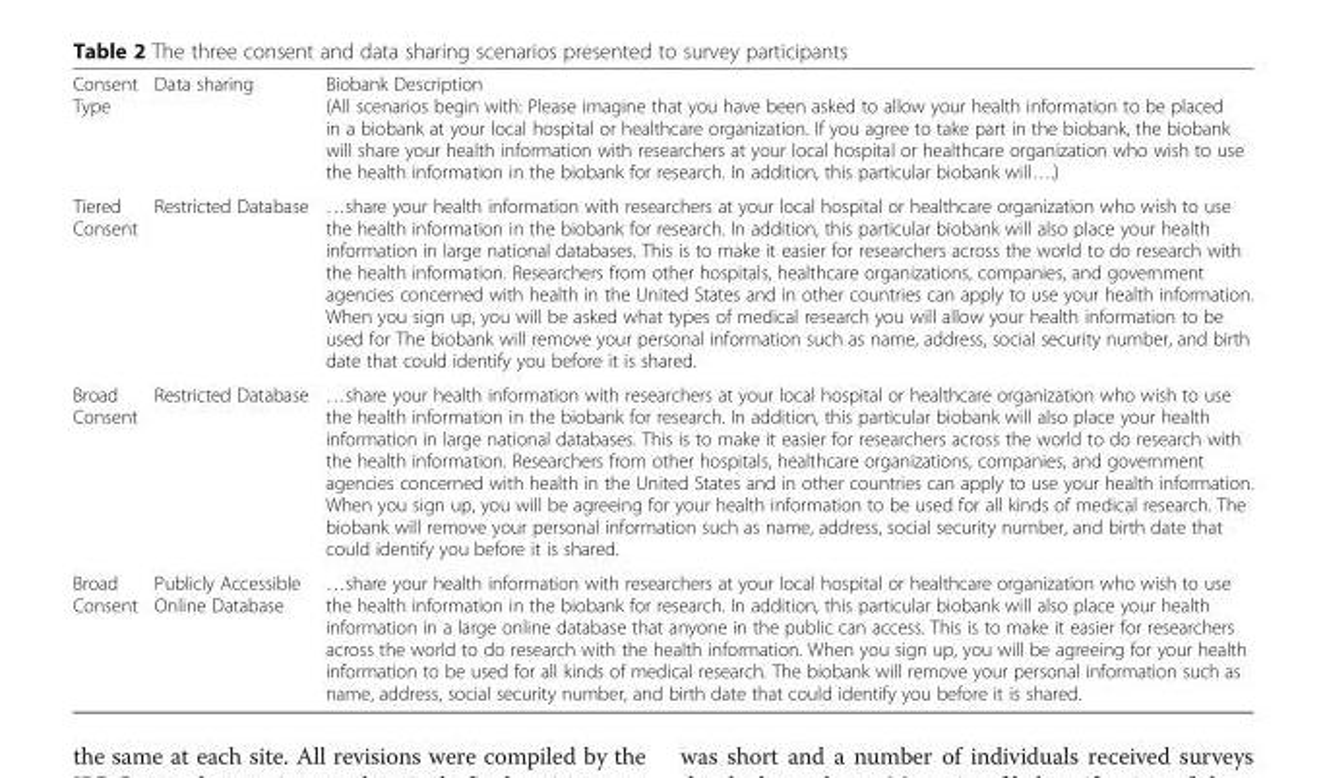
<table><tbody><tr><td>Consent Type</td><td>Data sharing</td><td>Biobank Description (All scenarios begin with: Please imagine that you have been asked to allow your health information to be placed in a biobank at your local hospital or healthcare organization. If you agree to take part in the biobank, the biobank will share your health information with researchers at your local hospital or healthcare organization who wish to use the health information in the biobank for research. In addition, this particular biobank will….)</td></tr><tr><td>Tiered Consent</td><td>Restricted Database</td><td>…share your health information with researchers at your local hospital or healthcare organization who wish to use the health information in the biobank for research. In addition, this particular biobank will also place your health information in large national databases. This is to make it easier for researchers across the world to do research with the health information. Researchers from other hospitals, healthcare organizations, companies, and government agencies concerned with health in the United States and in other countries can apply to use your health information. When you sign up, you will be asked what types of medical research you will allow your health information to be used for The biobank will remove your personal information such as name, address, social security number, and birth date that could identify you before it is shared.</td></tr><tr><td>Broad Consent</td><td>Restricted Database</td><td>…share your health information with researchers at your local hospital or healthcare organization who wish to use the health information in the biobank for research. In addition, this particular biobank will also place your health information in large national databases. This is to make it easier for researchers across the world to do research with the health information. Researchers from other hospitals, healthcare organizations, companies, and government agencies concerned with health in the United States and in other countries can apply to use your health information. When you sign up, you will be agreeing for your health information to be used for all kinds of medical research. The biobank will remove your personal information such as name, address, social security number, and birth date that could identify you before it is shared.</td></tr><tr><td>Broad Consent</td><td>Publicly Accessible Online Database</td><td>…share your health information with researchers at your local hospital or healthcare organization who wish to use the health information in the biobank for research. In addition, this particular biobank will also place your health information in a large online database that anyone in the public can access. This is to make it easier for researchers across the world to do research with the health information. When you sign up, you will be agreeing for your health information to be used for all kinds of medical research. The biobank will remove your personal information such as name, address, social security number, and birth date that could identify you before it is shared.</td></tr></tbody></table>